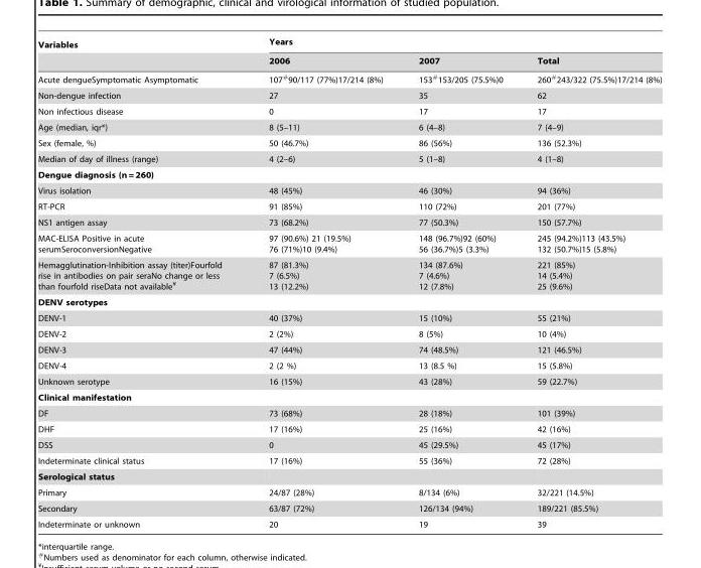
<table><thead><tr><td rowspan="2">Variables</td><td colspan="3">Years</td></tr><tr><td>2006</td><td>2007</td><td>Total</td></tr></thead><tbody><tr><td>Acute dengueSymptomatic Asymptomatic</td><td>107#90/117 (77%)17/214 (8%)</td><td>153#153/205 (75.5%)0</td><td>260#243/322 (75.5%)17/214 (8%)</td></tr><tr><td>Non-dengue infection</td><td>27</td><td>35</td><td>62</td></tr><tr><td>Non infectious disease</td><td>0</td><td>17</td><td>17</td></tr><tr><td>Age (median, iqr*)</td><td>8 (5–11)</td><td>6 (4–8)</td><td>7 (4–9)</td></tr><tr><td>Sex (female, %)</td><td>50 (46.7%)</td><td>86 (56%)</td><td>136 (52.3%)</td></tr><tr><td>Median of day of illness (range)</td><td>4 (2–6)</td><td>5 (1–8)</td><td>4 (1–8)</td></tr><tr><td colspan="4">Dengue diagnosis (n = 260)</td></tr><tr><td>Virus isolation</td><td>48 (45%)</td><td>46 (30%)</td><td>94 (36%)</td></tr><tr><td>RT-PCR</td><td>91 (85%)</td><td>110 (72%)</td><td>201 (77%)</td></tr><tr><td>NS1 antigen assay</td><td>73 (68.2%)</td><td>77 (50.3%)</td><td>150 (57.7%)</td></tr><tr><td>MAC-ELISA Positive in acute serumSeroconversionNegative</td><td>97 (90.6%) 21 (19.5%) 76 (71%)10 (9.4%)</td><td>148 (96.7%)92 (60%) 56 (36.7%)5 (3.3%)</td><td>245 (94.2%)113 (43.5%) 132 (50.7%)15 (5.8%)</td></tr><tr><td>Hemagglutination-Inhibition assay (titer)Fourfold rise in antibodies on pair seraNo change or less than fourfold riseData not available¥</td><td>87 (81.3%) 7 (6.5%) 13 (12.2%)</td><td>134 (87.6%) 7 (4.6%) 12 (7.8%)</td><td>221 (85%) 14 (5.4%) 25 (9.6%)</td></tr><tr><td colspan="4">DENV serotypes</td></tr><tr><td>DENV-1</td><td>40 (37%)</td><td>15 (10%)</td><td>55 (21%)</td></tr><tr><td>DENV-2</td><td>2 (2%)</td><td>8 (5%)</td><td>10 (4%)</td></tr><tr><td>DENV-3</td><td>47 (44%)</td><td>74 (48.5%)</td><td>121 (46.5%)</td></tr><tr><td>DENV-4</td><td>2 (2 %)</td><td>13 (8.5 %)</td><td>15 (5.8%)</td></tr><tr><td>Unknown serotype</td><td>16 (15%)</td><td>43 (28%)</td><td>59 (22.7%)</td></tr><tr><td colspan="4">Clinical manifestation</td></tr><tr><td>DF</td><td>73 (68%)</td><td>28 (18%)</td><td>101 (39%)</td></tr><tr><td>DHF</td><td>17 (16%)</td><td>25 (16%)</td><td>42 (16%)</td></tr><tr><td>DSS</td><td>0</td><td>45 (29.5%)</td><td>45 (17%)</td></tr><tr><td>Indeterminate clinical status</td><td>17 (16%)</td><td>55 (36%)</td><td>72 (28%)</td></tr><tr><td colspan="4">Serological status</td></tr><tr><td>Primary</td><td>24/87 (28%)</td><td>8/134 (6%)</td><td>32/221 (14.5%)</td></tr><tr><td>Secondary</td><td>63/87 (72%)</td><td>126/134 (94%)</td><td>189/221 (85.5%)</td></tr><tr><td>Indeterminate or unknown</td><td>20</td><td>19</td><td>39</td></tr></tbody></table>